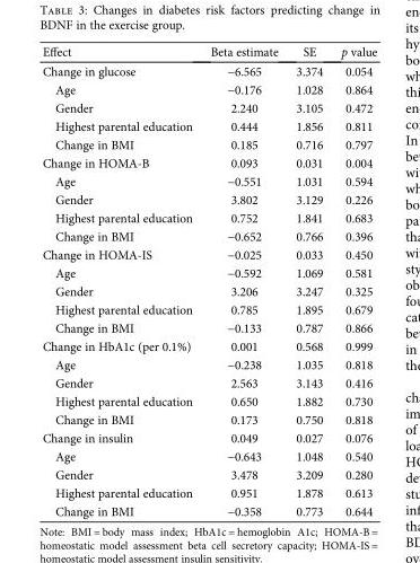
<table><thead><tr><td>Effect</td><td>Beta estimate</td><td>SE</td><td>p value</td></tr></thead><tbody><tr><td>Change in glucose</td><td>−6.565</td><td>3.374</td><td>0.054</td></tr><tr><td>Age</td><td>−0.176</td><td>1.028</td><td>0.864</td></tr><tr><td>Gender</td><td>2.240</td><td>3.105</td><td>0.472</td></tr><tr><td>Highest parental education</td><td>0.444</td><td>1.856</td><td>0.811</td></tr><tr><td>Change in BMI</td><td>0.185</td><td>0.716</td><td>0.797</td></tr><tr><td>Change in HOMA-B</td><td>0.093</td><td>0.031</td><td>0.004</td></tr><tr><td>Age</td><td>−0.551</td><td>1.031</td><td>0.594</td></tr><tr><td>Gender</td><td>3.802</td><td>3.129</td><td>0.226</td></tr><tr><td>Highest parental education</td><td>0.752</td><td>1.841</td><td>0.683</td></tr><tr><td>Change in BMI</td><td>−0.652</td><td>0.766</td><td>0.396</td></tr><tr><td>Change in HOMA-IS</td><td>−0.025</td><td>0.033</td><td>0.450</td></tr><tr><td>Age</td><td>−0.592</td><td>1.069</td><td>0.581</td></tr><tr><td>Gender</td><td>3.206</td><td>3.247</td><td>0.325</td></tr><tr><td>Highest parental education</td><td>0.785</td><td>1.895</td><td>0.679</td></tr><tr><td>Change in BMI</td><td>−0.133</td><td>0.787</td><td>0.866</td></tr><tr><td>Change in HbA1c (per 0.1%)</td><td>0.001</td><td>0.568</td><td>0.999</td></tr><tr><td>Age</td><td>−0.238</td><td>1.035</td><td>0.818</td></tr><tr><td>Gender</td><td>2.563</td><td>3.143</td><td>0.416</td></tr><tr><td>Highest parental education</td><td>0.650</td><td>1.882</td><td>0.730</td></tr><tr><td>Change in BMI</td><td>0.173</td><td>0.750</td><td>0.818</td></tr><tr><td>Change in insulin</td><td>0.049</td><td>0.027</td><td>0.076</td></tr><tr><td>Age</td><td>−0.643</td><td>1.048</td><td>0.540</td></tr><tr><td>Gender</td><td>3.478</td><td>3.209</td><td>0.280</td></tr><tr><td>Highest parental education</td><td>0.951</td><td>1.878</td><td>0.613</td></tr><tr><td>Change in BMI</td><td>−0.358</td><td>0.773</td><td>0.644</td></tr></tbody></table>